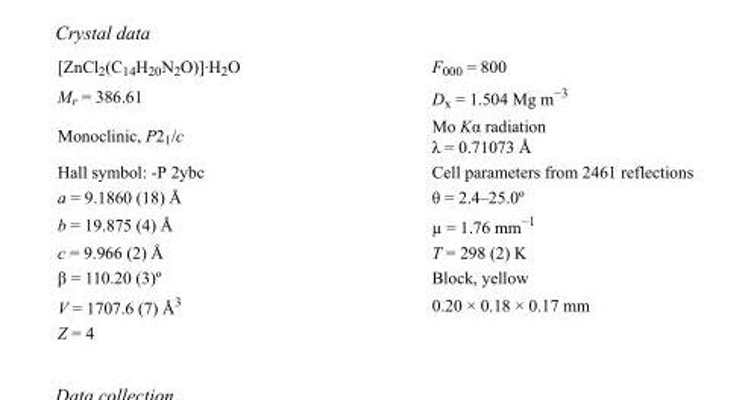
<table><tbody><tr><td>[ZnCl<sub>2</sub>(C<sub>14</sub>H<sub>20</sub>N<sub>2</sub>O)]·H<sub>2</sub>O</td><td>F<sub>000</sub> = 800</td></tr><tr><td>M<sub>r</sub> = 386.61</td><td>D<sub>x</sub> = 1.504 Mg m<sup>−3</sup></td></tr><tr><td>Monoclinic, P2<sub>1</sub>/c</td><td>Mo Kα radiation λ = 0.71073 Å</td></tr><tr><td>Hall symbol: -P 2ybc</td><td>Cell parameters from 2461 reflections</td></tr><tr><td>a = 9.1860 (18) Å</td><td>θ = 2.4–25.0º</td></tr><tr><td>b = 19.875 (4) Å</td><td>µ = 1.76 mm<sup>−1</sup></td></tr><tr><td>c = 9.966 (2) Å</td><td>T = 298 (2) K</td></tr><tr><td>β = 110.20 (3)º</td><td>Block, yellow</td></tr><tr><td>V = 1707.6 (7) Å<sup>3</sup></td><td>0.20 × 0.18 × 0.17 mm</td></tr><tr><td>Z = 4</td><td></td></tr></tbody></table>